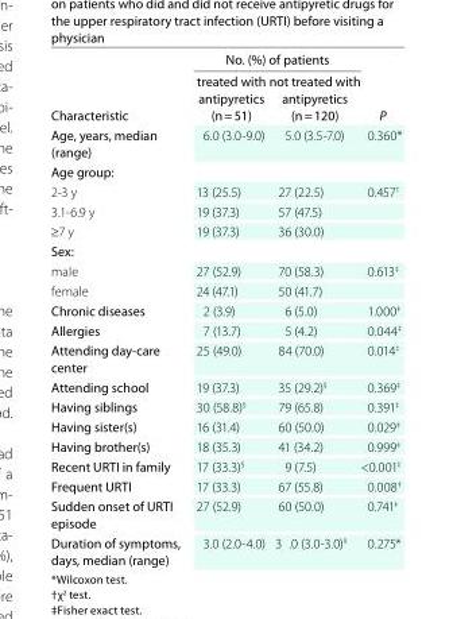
<table><thead><tr><td rowspan="2">Characteristic</td><td colspan="2">no. (%) of patients</td><td rowspan="2">P</td></tr><tr><td>treated with antipyretics (n = 51)</td><td>not treated with antipyretics (n = 120)</td></tr></thead><tbody><tr><td>Age, years, median (range)</td><td>6.0 (3.0-9.0)</td><td>5.0 (3.5-7.0)</td><td>0.360*</td></tr><tr><td colspan="4">Age group:</td></tr><tr><td>2-3 y</td><td>13 (25.5)</td><td>27 (22.5)</td><td>0.457<sup>†</sup></td></tr><tr><td>3.1-6.9 y</td><td>19 (37.3)</td><td>57 (47.5)</td><td></td></tr><tr><td>≥7 y</td><td>19 (37.3)</td><td>36 (30.0)</td><td></td></tr><tr><td colspan="4">Sex:</td></tr><tr><td>male</td><td>27 (52.9)</td><td>70 (58.3)</td><td>0.613<sup>‡</sup></td></tr><tr><td>female</td><td>24 (47.1)</td><td>50 (41.7)</td><td></td></tr><tr><td>Chronic diseases</td><td>2 (3.9)</td><td>6 (5.0)</td><td>1.000<sup>‡</sup></td></tr><tr><td>Allergies</td><td>7 (13.7)</td><td>5 (4.2)</td><td>0.044<sup>‡</sup></td></tr><tr><td>Attending day-care center</td><td>25 (49.0)</td><td>84 (70.0)</td><td>0.014<sup>‡</sup></td></tr><tr><td>Attending school</td><td>19 (37.3)</td><td>35 (29.2)<sup>§</sup></td><td>0.369<sup>‡</sup></td></tr><tr><td>having siblings</td><td>30 (58.8)<sup>§</sup></td><td>79 (65.8)</td><td>0.391<sup>‡</sup></td></tr><tr><td>having sister(s)</td><td>16 (31.4)</td><td>60 (50.0)</td><td>0.029<sup>‡</sup></td></tr><tr><td>having brother(s)</td><td>18 (35.3)</td><td>41 (34.2)</td><td>0.999<sup>‡</sup></td></tr><tr><td>Recent uRTi in family</td><td>17 (33.3)<sup>§</sup></td><td>9 (7.5)</td><td>&lt;0.001<sup>‡</sup></td></tr><tr><td>Frequent uRTi</td><td>17 (33.3)</td><td>67 (55.8)</td><td>0.008<sup>‡</sup></td></tr><tr><td>Sudden onset of uRTi episode</td><td>27 (52.9)</td><td>60 (50.0)</td><td>0.741<sup>‡</sup></td></tr><tr><td>Duration of symptoms, days, median (range)</td><td>3.0 (2.0-4.0)</td><td>3 .0 (3.0-3.0)II</td><td>0.275*</td></tr></tbody></table>